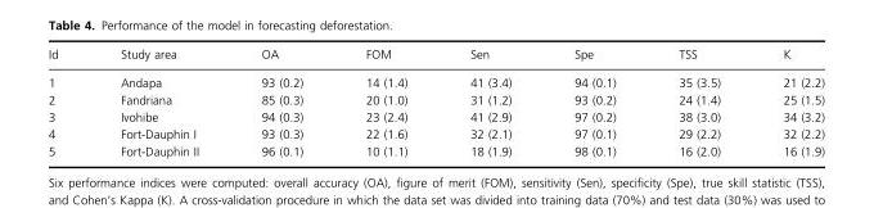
<table><thead><tr><td>Id</td><td>Study area</td><td>OA</td><td>FOM</td><td>Sen</td><td>Spe</td><td>TSS</td><td>K</td></tr></thead><tbody><tr><td>1</td><td>Andapa</td><td>93 (0.2)</td><td>14 (1.4)</td><td>41 (3.4)</td><td>94 (0.1)</td><td>35 (3.5)</td><td>21 (2.2)</td></tr><tr><td>2</td><td>Fandriana</td><td>85 (0.3)</td><td>20 (1.0)</td><td>31 (1.2)</td><td>93 (0.2)</td><td>24 (1.4)</td><td>25 (1.5)</td></tr><tr><td>3</td><td>Ivohibe</td><td>94 (0.3)</td><td>23 (2.4)</td><td>41 (2.9)</td><td>97 (0.2)</td><td>38 (3.0)</td><td>34 (3.2)</td></tr><tr><td>4</td><td>Fort-Dauphin I</td><td>93 (0.3)</td><td>22 (1.6)</td><td>32 (2.1)</td><td>97 (0.1)</td><td>29 (2.2)</td><td>32 (2.2)</td></tr><tr><td>5</td><td>Fort-Dauphin II</td><td>96 (0.1)</td><td>10 (1.1)</td><td>18 (1.9)</td><td>98 (0.1)</td><td>16 (2.0)</td><td>16 (1.9)</td></tr></tbody></table>